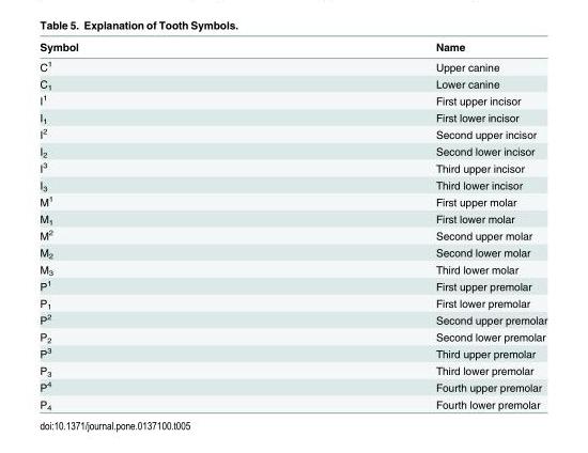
<table><thead><tr><td>Symbol</td><td>Name</td></tr></thead><tbody><tr><td>C<sup>1</sup></td><td>Upper canine</td></tr><tr><td>C<sub>1</sub></td><td>Lower canine</td></tr><tr><td>I<sup>1</sup></td><td>First upper incisor</td></tr><tr><td>I<sub>1</sub></td><td>First lower incisor</td></tr><tr><td>I<sup>2</sup></td><td>Second upper incisor</td></tr><tr><td>I<sub>2</sub></td><td>Second lower incisor</td></tr><tr><td>I<sup>3</sup></td><td>Third upper incisor</td></tr><tr><td>I<sub>3</sub></td><td>Third lower incisor</td></tr><tr><td>M<sup>1</sup></td><td>First upper molar</td></tr><tr><td>M<sub>1</sub></td><td>First lower molar</td></tr><tr><td>M<sup>2</sup></td><td>Second upper molar</td></tr><tr><td>M<sub>2</sub></td><td>Second lower molar</td></tr><tr><td>M<sub>3</sub></td><td>Third lower molar</td></tr><tr><td>P<sup>1</sup></td><td>First upper premolar</td></tr><tr><td>P<sub>1</sub></td><td>First lower premolar</td></tr><tr><td>P<sup>2</sup></td><td>Second upper premolar</td></tr><tr><td>P<sub>2</sub></td><td>Second lower premolar</td></tr><tr><td>P<sup>3</sup></td><td>Third upper premolar</td></tr><tr><td>P<sub>3</sub></td><td>Third lower premolar</td></tr><tr><td>P<sup>4</sup></td><td>Fourth upper premolar</td></tr><tr><td>P<sub>4</sub></td><td>Fourth lower premolar</td></tr></tbody></table>